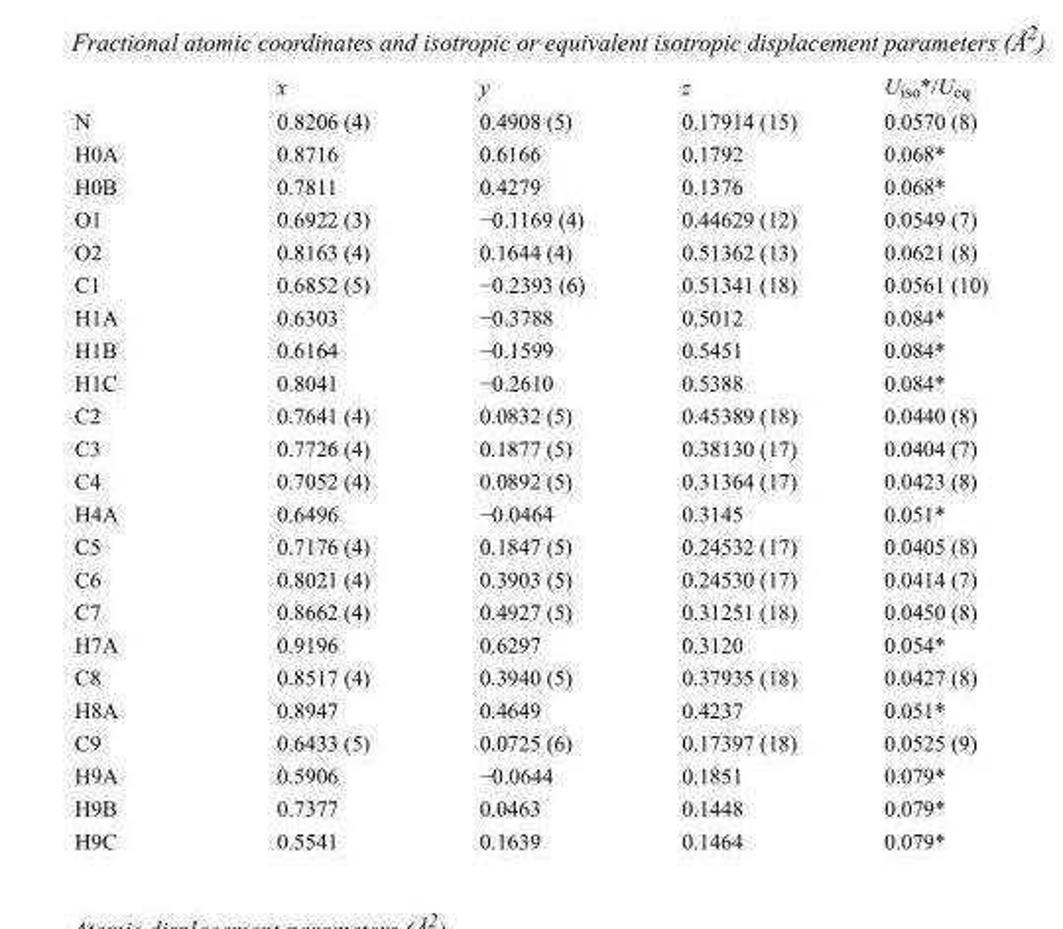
<table><thead><tr><td></td><td>x</td><td>y</td><td>z</td><td>U<sub>iso</sub>*/U<sub>eq</sub></td></tr></thead><tbody><tr><td>N</td><td>0.8206 (4)</td><td>0.4908 (5)</td><td>0.17914 (15)</td><td>0.0570 (8)</td></tr><tr><td>H0A</td><td>0.8716</td><td>0.6166</td><td>0.1792</td><td>0.068*</td></tr><tr><td>H0B</td><td>0.7811</td><td>0.4279</td><td>0.1376</td><td>0.068*</td></tr><tr><td>O1</td><td>0.6922 (3)</td><td>−0.1169 (4)</td><td>0.44629 (12)</td><td>0.0549 (7)</td></tr><tr><td>O2</td><td>0.8163 (4)</td><td>0.1644 (4)</td><td>0.51362 (13)</td><td>0.0621 (8)</td></tr><tr><td>C1</td><td>0.6852 (5)</td><td>−0.2393 (6)</td><td>0.51341 (18)</td><td>0.0561 (10)</td></tr><tr><td>H1A</td><td>0.6303</td><td>−0.3788</td><td>0.5012</td><td>0.084*</td></tr><tr><td>H1B</td><td>0.6164</td><td>−0.1599</td><td>0.5451</td><td>0.084*</td></tr><tr><td>H1C</td><td>0.8041</td><td>−0.2610</td><td>0.5388</td><td>0.084*</td></tr><tr><td>C2</td><td>0.7641 (4)</td><td>0.0832 (5)</td><td>0.45389 (18)</td><td>0.0440 (8)</td></tr><tr><td>C3</td><td>0.7726 (4)</td><td>0.1877 (5)</td><td>0.38130 (17)</td><td>0.0404 (7)</td></tr><tr><td>C4</td><td>0.7052 (4)</td><td>0.0892 (5)</td><td>0.31364 (17)</td><td>0.0423 (8)</td></tr><tr><td>H4A</td><td>0.6496</td><td>−0.0464</td><td>0.3145</td><td>0.051*</td></tr><tr><td>C5</td><td>0.7176 (4)</td><td>0.1847 (5)</td><td>0.24532 (17)</td><td>0.0405 (8)</td></tr><tr><td>C6</td><td>0.8021 (4)</td><td>0.3903 (5)</td><td>0.24530 (17)</td><td>0.0414 (7)</td></tr><tr><td>C7</td><td>0.8662 (4)</td><td>0.4927 (5)</td><td>0.31251 (18)</td><td>0.0450 (8)</td></tr><tr><td>H7A</td><td>0.9196</td><td>0.6297</td><td>0.3120</td><td>0.054*</td></tr><tr><td>C8</td><td>0.8517 (4)</td><td>0.3940 (5)</td><td>0.37935 (18)</td><td>0.0427 (8)</td></tr><tr><td>H8A</td><td>0.8947</td><td>0.4649</td><td>0.4237</td><td>0.051*</td></tr><tr><td>C9</td><td>0.6433 (5)</td><td>0.0725 (6)</td><td>0.17397 (18)</td><td>0.0525 (9)</td></tr><tr><td>H9A</td><td>0.5906</td><td>−0.0644</td><td>0.1851</td><td>0.079*</td></tr><tr><td>H9B</td><td>0.7377</td><td>0.0463</td><td>0.1448</td><td>0.079*</td></tr><tr><td>H9C</td><td>0.5541</td><td>0.1639</td><td>0.1464</td><td>0.079*</td></tr></tbody></table>